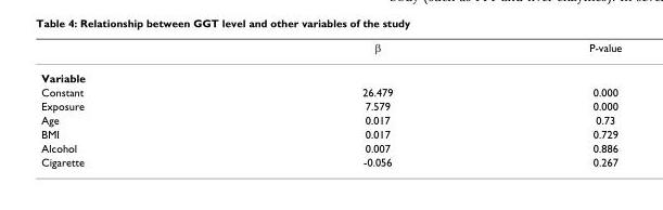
<table><thead><tr><td></td><td>β</td><td>P-value</td></tr></thead><tbody><tr><td colspan="3">Variable</td></tr><tr><td>Constant</td><td>26.479</td><td>0.000</td></tr><tr><td>Exposure</td><td>7.579</td><td>0.000</td></tr><tr><td>Age</td><td>0.017</td><td>0.73</td></tr><tr><td>BMI</td><td>0.017</td><td>0.729</td></tr><tr><td>Alcohol</td><td>0.007</td><td>0.886</td></tr><tr><td>Cigarette</td><td>-0.056</td><td>0.267</td></tr></tbody></table>